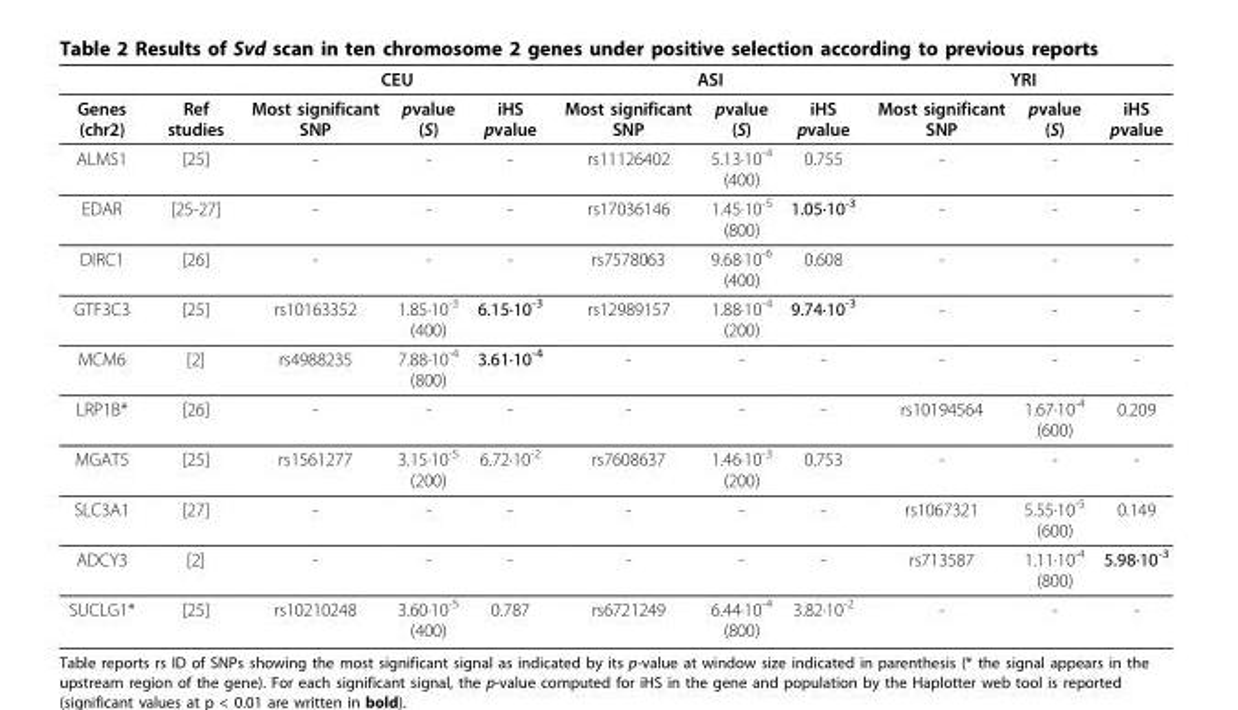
<table><thead><tr><td rowspan="2">Genes (chr2)</td><td rowspan="2">Ref studies</td><td colspan="3">CEU</td><td colspan="3">ASI</td><td colspan="3">YRI</td></tr><tr><td>Most significant SNP</td><td>pvalue (S)</td><td>iHS pvalue</td><td>Most significant SNP</td><td>pvalue (S)</td><td>iHS pvalue</td><td>Most significant SNP</td><td>pvalue (S)</td><td>iHS pvalue</td></tr></thead><tbody><tr><td>ALMS1</td><td>[25]</td><td>-</td><td>-</td><td>-</td><td>rs11126402</td><td>5.13·10<sup>-4</sup> (400)</td><td>0.755</td><td>-</td><td>-</td><td>-</td></tr><tr><td>EDAR</td><td>[25-27]</td><td>-</td><td>-</td><td>-</td><td>rs17036146</td><td>1.45·10<sup>-5</sup> (800)</td><td>1.05·10<sup>-3</sup></td><td>-</td><td>-</td><td>-</td></tr><tr><td>DIRC1</td><td>[26]</td><td>-</td><td>-</td><td>-</td><td>rs7578063</td><td>9.68·10<sup>-6</sup> (400)</td><td>0.608</td><td>-</td><td>-</td><td>-</td></tr><tr><td>GTF3C3</td><td>[25]</td><td>rs10163352</td><td>1.85·10<sup>-3</sup> (400)</td><td>6.15·10<sup>-3</sup></td><td>rs12989157</td><td>1.88·10<sup>-4</sup> (200)</td><td>9.74·10<sup>-3</sup></td><td>-</td><td>-</td><td>-</td></tr><tr><td>MCM6</td><td>[2]</td><td>rs4988235</td><td>7.88·10<sup>-4</sup> (800)</td><td>3.61·10<sup>-4</sup></td><td>-</td><td>-</td><td>-</td><td>-</td><td>-</td><td>-</td></tr><tr><td>LRP1B*</td><td>[26]</td><td>-</td><td>-</td><td>-</td><td>-</td><td>-</td><td>-</td><td>rs10194564</td><td>1.67·10<sup>-4</sup> (600)</td><td>0.209</td></tr><tr><td>MGAT5</td><td>[25]</td><td>rs1561277</td><td>3.15·10<sup>-5</sup> (200)</td><td>6.72·10<sup>-2</sup></td><td>rs7608637</td><td>1.46·10<sup>-3</sup> (200)</td><td>0.753</td><td>-</td><td>-</td><td>-</td></tr><tr><td>SLC3A1</td><td>[27]</td><td>-</td><td>-</td><td>-</td><td>-</td><td>-</td><td>-</td><td>rs1067321</td><td>5.55·10<sup>-5</sup> (600)</td><td>0.149</td></tr><tr><td>ADCY3</td><td>[2]</td><td>-</td><td>-</td><td>-</td><td>-</td><td>-</td><td>-</td><td>rs713587</td><td>1.11·10<sup>-4</sup> (800)</td><td>5.98·10<sup>-3</sup></td></tr><tr><td>SUCLG1*</td><td>[25]</td><td>rs10210248</td><td>3.60·10<sup>-5</sup> (400)</td><td>0.787</td><td>rs6721249</td><td>6.44·10<sup>-4</sup> (800)</td><td>3.82·10<sup>-2</sup></td><td>-</td><td>-</td><td>-</td></tr></tbody></table>